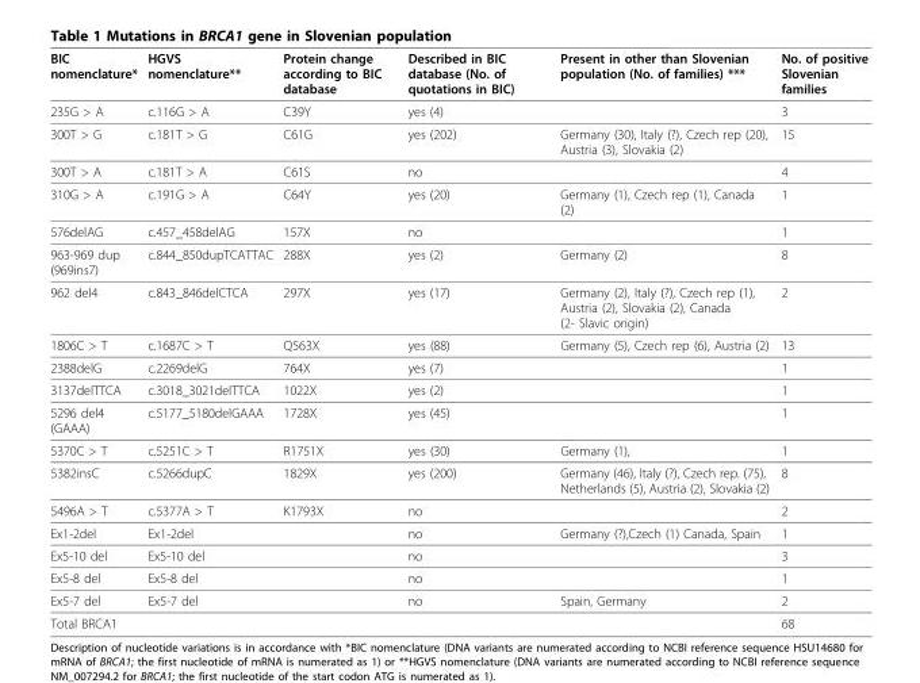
<table><thead><tr><td>BIC nomenclature*</td><td>HGVS nomenclature**</td><td>Protein change according to BIC database</td><td>Described in BIC database (No. of quotations in BIC)</td><td>Present in other than Slovenian population (No. of families) ***</td><td>No. of positive Slovenian families</td></tr></thead><tbody><tr><td>235G &gt; A</td><td>c.116G &gt; A</td><td>C39Y</td><td>yes (4)</td><td></td><td>3</td></tr><tr><td>300T &gt; G</td><td>c.181T &gt; G</td><td>C61G</td><td>yes (202)</td><td>Germany (30), Italy (?), Czech rep (20), Austria (3), Slovakia (2)</td><td>15</td></tr><tr><td>300T &gt; A</td><td>c.181T &gt; A</td><td>C61S</td><td>no</td><td></td><td>4</td></tr><tr><td>310G &gt; A</td><td>c.191G &gt; A</td><td>C64Y</td><td>yes (20)</td><td>Germany (1), Czech rep (1), Canada (2)</td><td>1</td></tr><tr><td>576delAG</td><td>c.457_458delAG</td><td>157X</td><td>no</td><td></td><td>1</td></tr><tr><td>963-969 dup (969ins7)</td><td>c.844_850dupTCATTAC</td><td>288X</td><td>yes (2)</td><td>Germany (2)</td><td>8</td></tr><tr><td>962 del4</td><td>c.843_846delCTCA</td><td>297X</td><td>yes (17)</td><td>Germany (2), Italy (?), Czech rep (1), Austria (2), Slovakia (2), Canada (2- Slavic origin)</td><td>2</td></tr><tr><td>1806C &gt; T</td><td>c.1687C &gt; T</td><td>Q563X</td><td>yes (88)</td><td>Germany (5), Czech rep (6), Austria (2)</td><td>13</td></tr><tr><td>2388delG</td><td>c.2269delG</td><td>764X</td><td>yes (7)</td><td></td><td>1</td></tr><tr><td>3137delTTCA</td><td>c.3018_3021delTTCA</td><td>1022X</td><td>yes (2)</td><td></td><td>1</td></tr><tr><td>5296 del4 (GAAA)</td><td>c.5177_5180delGAAA</td><td>1728X</td><td>yes (45)</td><td></td><td>1</td></tr><tr><td>5370C &gt; T</td><td>c.5251C &gt; T</td><td>R1751X</td><td>yes (30)</td><td>Germany (1),</td><td>1</td></tr><tr><td>5382insC</td><td>c.5266dupC</td><td>1829X</td><td>yes (200)</td><td>Germany (46), Italy (?), Czech rep. (75), Netherlands (5), Austria (2), Slovakia (2)</td><td>8</td></tr><tr><td>5496A &gt; T</td><td>c.5377A &gt; T</td><td>K1793X</td><td>no</td><td></td><td>2</td></tr><tr><td>Ex1-2del</td><td>Ex1-2del</td><td></td><td>no</td><td>Germany (?),Czech (1) Canada, Spain</td><td>1</td></tr><tr><td>Ex5-10 del</td><td>Ex5-10 del</td><td></td><td>no</td><td></td><td>3</td></tr><tr><td>Ex5-8 del</td><td>Ex5-8 del</td><td></td><td>no</td><td></td><td>1</td></tr><tr><td>Ex5-7 del</td><td>Ex5-7 del</td><td></td><td>no</td><td>Spain, Germany</td><td>2</td></tr><tr><td>Total BRCA1</td><td></td><td></td><td></td><td></td><td>68</td></tr></tbody></table>